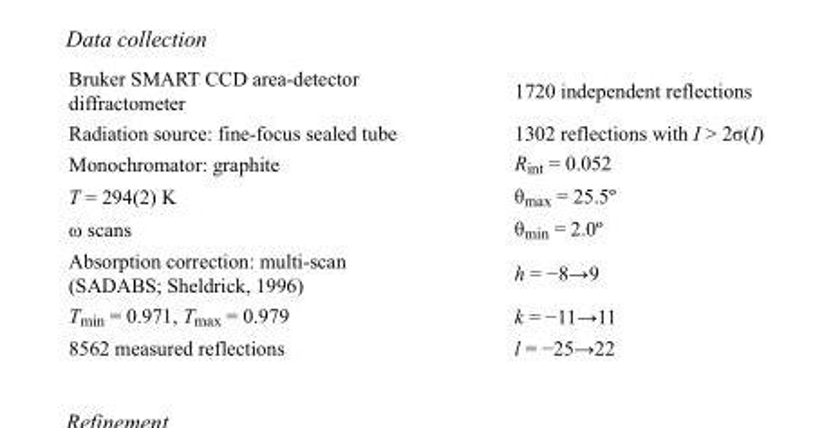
<table><tbody><tr><td>Bruker SMART CCD area-detector diffractometer</td><td>1720 independent reflections</td></tr><tr><td>Radiation source: fine-focus sealed tube</td><td>1302 reflections with I &gt; 2σ(I)</td></tr><tr><td>Monochromator: graphite</td><td>R<sub>int</sub> = 0.052</td></tr><tr><td>T = 294(2) K</td><td>θ<sub>max</sub> = 25.5º</td></tr><tr><td>ω scans</td><td>θ<sub>min</sub> = 2.0º</td></tr><tr><td>Absorption correction: multi-scan (SADABS; Sheldrick, 1996)</td><td>h = −8→9</td></tr><tr><td>T<sub>min</sub> = 0.971, T<sub>max</sub> = 0.979</td><td>k = −11→11</td></tr><tr><td>8562 measured reflections</td><td>l = −25→22</td></tr></tbody></table>